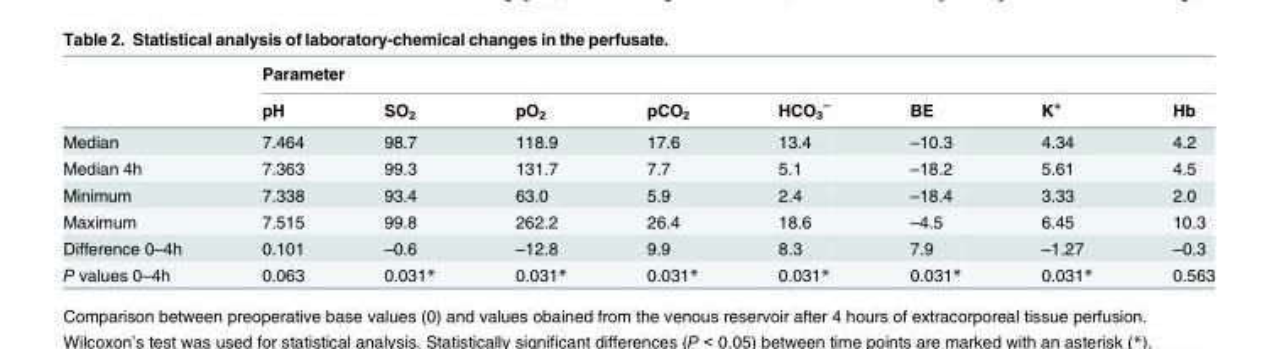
<table><thead><tr><td rowspan="2"></td><td colspan="8">Parameter</td></tr><tr><td>pH</td><td>SO<sub>2</sub></td><td>pO<sub>2</sub></td><td>pCO<sub>2</sub></td><td>HCO<sub>3</sub> <sup>–</sup></td><td>BE</td><td>K<sup>+</sup></td><td>Hb</td></tr></thead><tbody><tr><td>Median</td><td>7.464</td><td>98.7</td><td>118.9</td><td>17.6</td><td>13.4</td><td>–10.3</td><td>4.34</td><td>4.2</td></tr><tr><td>Median 4h</td><td>7.363</td><td>99.3</td><td>131.7</td><td>7.7</td><td>5.1</td><td>–18.2</td><td>5.61</td><td>4.5</td></tr><tr><td>Minimum</td><td>7.338</td><td>93.4</td><td>63.0</td><td>5.9</td><td>2.4</td><td>–18.4</td><td>3.33</td><td>2.0</td></tr><tr><td>Maximum</td><td>7.515</td><td>99.8</td><td>262.2</td><td>26.4</td><td>18.6</td><td>–4.5</td><td>6.45</td><td>10.3</td></tr><tr><td>Difference 0–4h</td><td>0.101</td><td>–0.6</td><td>–12.8</td><td>9.9</td><td>8.3</td><td>7.9</td><td>–1.27</td><td>–0.3</td></tr><tr><td>P values 0–4h</td><td>0.063</td><td>0.031*</td><td>0.031*</td><td>0.031*</td><td>0.031*</td><td>0.031*</td><td>0.031*</td><td>0.563</td></tr></tbody></table>